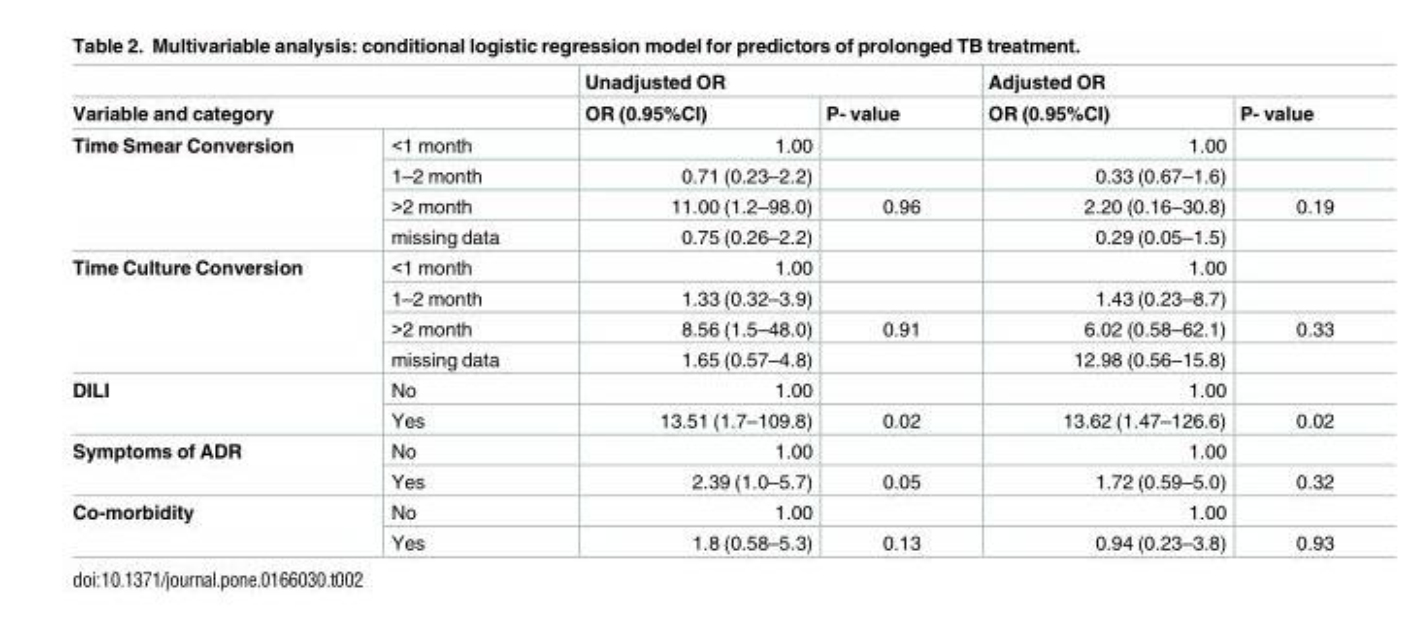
<table><thead><tr><td></td><td></td><td colspan="2">Unadjusted OR</td><td colspan="2">Adjusted OR</td></tr><tr><td colspan="2">Variable and category</td><td>OR (0.95%CI)</td><td>P- value</td><td>OR (0.95%CI)</td><td>P- value</td></tr></thead><tbody><tr><td rowspan="4">Time Smear Conversion</td><td>&lt;1 month</td><td>1.00</td><td></td><td>1.00</td><td></td></tr><tr><td>1–2 month</td><td>0.71 (0.23–2.2)</td><td></td><td>0.33 (0.67–1.6)</td><td></td></tr><tr><td>&gt;2 month</td><td>11.00 (1.2–98.0)</td><td>0.96</td><td>2.20 (0.16–30.8)</td><td>0.19</td></tr><tr><td>missing data</td><td>0.75 (0.26–2.2)</td><td></td><td>0.29 (0.05–1.5)</td><td></td></tr><tr><td rowspan="4">Time Culture Conversion</td><td>&lt;1 month</td><td>1.00</td><td></td><td>1.00</td><td></td></tr><tr><td>1–2 month</td><td>1.33 (0.32–3.9)</td><td></td><td>1.43 (0.23–8.7)</td><td></td></tr><tr><td>&gt;2 month</td><td>8.56 (1.5–48.0)</td><td>0.91</td><td>6.02 (0.58–62.1)</td><td>0.33</td></tr><tr><td>missing data</td><td>1.65 (0.57–4.8)</td><td></td><td>12.98 (0.56–15.8)</td><td></td></tr><tr><td rowspan="2">DILI</td><td>No</td><td>1.00</td><td></td><td>1.00</td><td></td></tr><tr><td>Yes</td><td>13.51 (1.7–109.8)</td><td>0.02</td><td>13.62 (1.47–126.6)</td><td>0.02</td></tr><tr><td rowspan="2">Symptoms of ADR</td><td>No</td><td>1.00</td><td></td><td>1.00</td><td></td></tr><tr><td>Yes</td><td>2.39 (1.0–5.7)</td><td>0.05</td><td>1.72 (0.59–5.0)</td><td>0.32</td></tr><tr><td rowspan="2">Co-morbidity</td><td>No</td><td>1.00</td><td></td><td>1.00</td><td></td></tr><tr><td>Yes</td><td>1.8 (0.58–5.3)</td><td>0.13</td><td>0.94 (0.23–3.8)</td><td>0.93</td></tr></tbody></table>